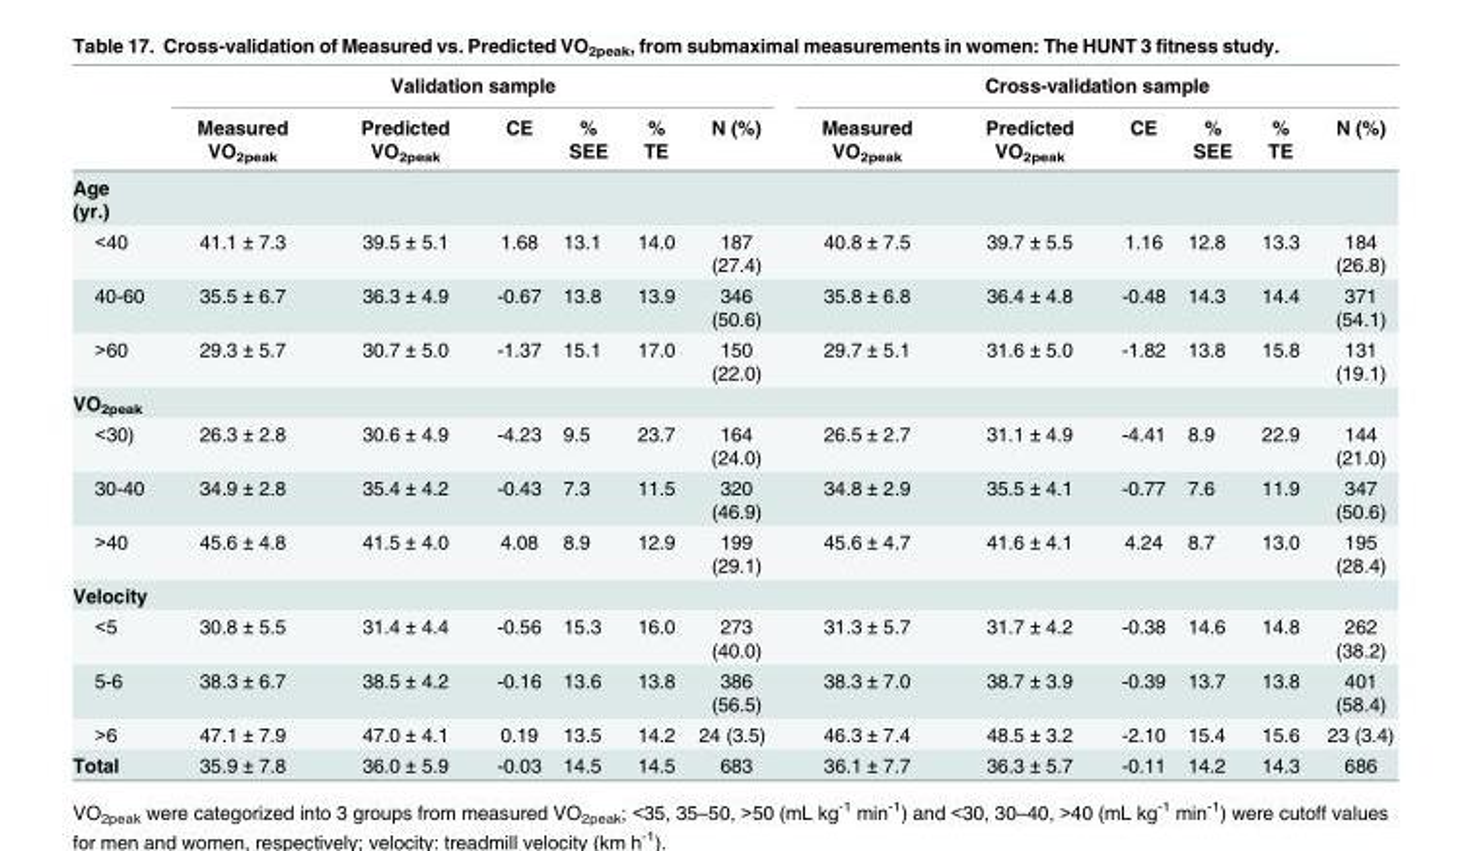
<table><thead><tr><td rowspan="2"></td><td colspan="6">Validation sample</td><td colspan="6">Cross-validation sample</td></tr><tr><td>Measured VO<sub>2peak</sub></td><td>Predicted VO<sub>2peak</sub></td><td>CE</td><td>% SEE</td><td>% TE</td><td>N (%)</td><td>Measured VO<sub>2peak</sub></td><td>Predicted VO<sub>2peak</sub></td><td>CE</td><td>% SEE</td><td>% TE</td><td>N (%)</td></tr></thead><tbody><tr><td colspan="13">Age (yr.)</td></tr><tr><td>&lt;40</td><td>41.1 ± 7.3</td><td>39.5 ± 5.1</td><td>1.68</td><td>13.1</td><td>14.0</td><td>187 (27.4)</td><td>40.8 ± 7.5</td><td>39.7 ± 5.5</td><td>1.16</td><td>12.8</td><td>13.3</td><td>184 (26.8)</td></tr><tr><td>40-60</td><td>35.5 ± 6.7</td><td>36.3 ± 4.9</td><td>-0.67</td><td>13.8</td><td>13.9</td><td>346 (50.6)</td><td>35.8 ± 6.8</td><td>36.4 ± 4.8</td><td>-0.48</td><td>14.3</td><td>14.4</td><td>371 (54.1)</td></tr><tr><td>&gt;60</td><td>29.3 ± 5.7</td><td>30.7 ± 5.0</td><td>-1.37</td><td>15.1</td><td>17.0</td><td>150 (22.0)</td><td>29.7 ± 5.1</td><td>31.6 ± 5.0</td><td>-1.82</td><td>13.8</td><td>15.8</td><td>131 (19.1)</td></tr><tr><td colspan="13">VO<sub>2peak</sub></td></tr><tr><td>&lt;30)</td><td>26.3 ± 2.8</td><td>30.6 ± 4.9</td><td>-4.23</td><td>9.5</td><td>23.7</td><td>164 (24.0)</td><td>26.5 ± 2.7</td><td>31.1 ± 4.9</td><td>-4.41</td><td>8.9</td><td>22.9</td><td>144 (21.0)</td></tr><tr><td>30-40</td><td>34.9 ± 2.8</td><td>35.4 ± 4.2</td><td>-0.43</td><td>7.3</td><td>11.5</td><td>320 (46.9)</td><td>34.8 ± 2.9</td><td>35.5 ± 4.1</td><td>-0.77</td><td>7.6</td><td>11.9</td><td>347 (50.6)</td></tr><tr><td>&gt;40</td><td>45.6 ± 4.8</td><td>41.5 ± 4.0</td><td>4.08</td><td>8.9</td><td>12.9</td><td>199 (29.1)</td><td>45.6 ± 4.7</td><td>41.6 ± 4.1</td><td>4.24</td><td>8.7</td><td>13.0</td><td>195 (28.4)</td></tr><tr><td colspan="13">Velocity</td></tr><tr><td>&lt;5</td><td>30.8 ± 5.5</td><td>31.4 ± 4.4</td><td>-0.56</td><td>15.3</td><td>16.0</td><td>273 (40.0)</td><td>31.3 ± 5.7</td><td>31.7 ± 4.2</td><td>-0.38</td><td>14.6</td><td>14.8</td><td>262 (38.2)</td></tr><tr><td>5-6</td><td>38.3 ± 6.7</td><td>38.5 ± 4.2</td><td>-0.16</td><td>13.6</td><td>13.8</td><td>386 (56.5)</td><td>38.3 ± 7.0</td><td>38.7 ± 3.9</td><td>-0.39</td><td>13.7</td><td>13.8</td><td>401 (58.4)</td></tr><tr><td>&gt;6</td><td>47.1 ± 7.9</td><td>47.0 ± 4.1</td><td>0.19</td><td>13.5</td><td>14.2</td><td>24 (3.5)</td><td>46.3 ± 7.4</td><td>48.5 ± 3.2</td><td>-2.10</td><td>15.4</td><td>15.6</td><td>23 (3.4)</td></tr><tr><td>Total</td><td>35.9 ± 7.8</td><td>36.0 ± 5.9</td><td>-0.03</td><td>14.5</td><td>14.5</td><td>683</td><td>36.1 ± 7.7</td><td>36.3 ± 5.7</td><td>-0.11</td><td>14.2</td><td>14.3</td><td>686</td></tr></tbody></table>